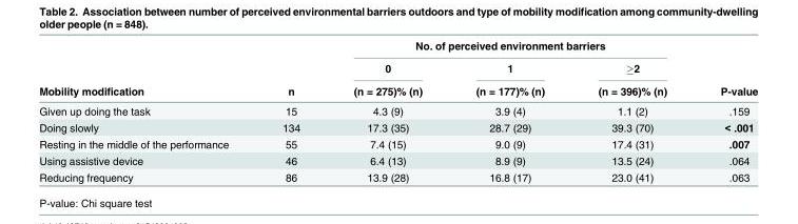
<table><thead><tr><td rowspan="3">Mobility modification</td><td rowspan="3">n</td><td colspan="3">No. of perceived environment barriers</td><td rowspan="3">P-value</td></tr><tr><td rowspan="2">0 (n = 275)% (n)</td><td rowspan="2">1 (n = 177)% (n)</td><td rowspan="2">≥2 (n = 396)% (n)</td></tr><tr></tr></thead><tbody><tr><td>Given up doing the task</td><td>15</td><td>4.3 (9)</td><td>3.9 (4)</td><td>1.1 (2)</td><td>.159</td></tr><tr><td>Doing slowly</td><td>134</td><td>17.3 (35)</td><td>28.7 (29)</td><td>39.3 (70)</td><td>&lt; .001</td></tr><tr><td>Resting in the middle of the performance</td><td>55</td><td>7.4 (15)</td><td>9.0 (9)</td><td>17.4 (31)</td><td>.007</td></tr><tr><td>Using assistive device</td><td>46</td><td>6.4 (13)</td><td>8.9 (9)</td><td>13.5 (24)</td><td>.064</td></tr><tr><td>Reducing frequency</td><td>86</td><td>13.9 (28)</td><td>16.8 (17)</td><td>23.0 (41)</td><td>.063</td></tr></tbody></table>